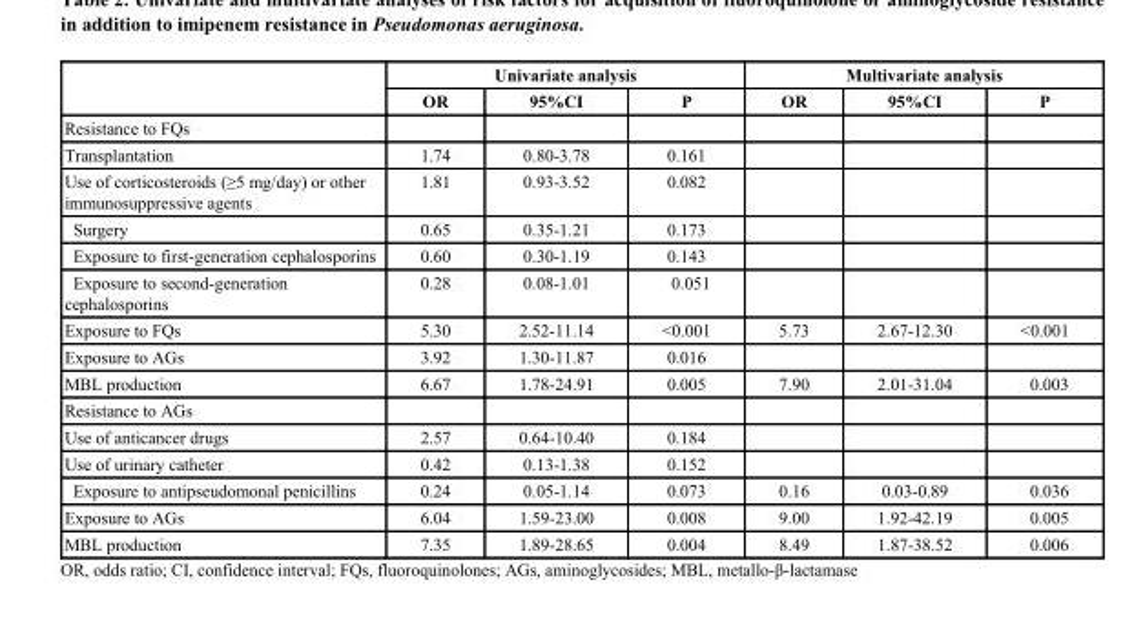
<table><thead><tr><td rowspan="2"></td><td colspan="3">Univariate analysis</td><td colspan="3">Multivariate analysis</td></tr><tr><td>OR</td><td>95%CI</td><td>P</td><td>OR</td><td>95%CI</td><td>P</td></tr></thead><tbody><tr><td colspan="7">Resistance to FQs</td></tr><tr><td>Transplantation</td><td>1.74</td><td>0.80-3.78</td><td>0.161</td><td></td><td></td><td></td></tr><tr><td>Use of corticosteroids (≥5 mg/day) or other immunosuppressive agents</td><td>1.81</td><td>0.93-3.52</td><td>0.082</td><td></td><td></td><td></td></tr><tr><td>Surgery</td><td>0.65</td><td>0.35-1.21</td><td>0.173</td><td></td><td></td><td></td></tr><tr><td>Exposure to first-generation cephalosporins</td><td>0.60</td><td>0.30-1.19</td><td>0.143</td><td></td><td></td><td></td></tr><tr><td>Exposure to second-generation cephalosporins</td><td>0.28</td><td>0.08-1.01</td><td>0.051</td><td></td><td></td><td></td></tr><tr><td>Exposure to FQs</td><td>5.30</td><td>2.52-11.14</td><td>&lt;0.001</td><td>5.73</td><td>2.67-12.30</td><td>&lt;0.001</td></tr><tr><td>Exposure to AGs</td><td>3.92</td><td>1.30-11.87</td><td>0.016</td><td></td><td></td><td></td></tr><tr><td>MBL production</td><td>6.67</td><td>1.78-24.91</td><td>0.005</td><td>7.90</td><td>2.01-31.04</td><td>0.003</td></tr><tr><td colspan="7">Resistance to AGs</td></tr><tr><td>Use of anticancer drugs</td><td>2.57</td><td>0.64-10.40</td><td>0.184</td><td></td><td></td><td></td></tr><tr><td>Use of urinary catheter</td><td>0.42</td><td>0.13-1.38</td><td>0.152</td><td></td><td></td><td></td></tr><tr><td>Exposure to antipseudomonal penicillins</td><td>0.24</td><td>0.05-1.14</td><td>0.073</td><td>0.16</td><td>0.03-0.89</td><td>0.036</td></tr><tr><td>Exposure to AGs</td><td>6.04</td><td>1.59-23.00</td><td>0.008</td><td>9.00</td><td>1.92-42.19</td><td>0.005</td></tr><tr><td>MBL production</td><td>7.35</td><td>1.89-28.65</td><td>0.004</td><td>8.49</td><td>1.87-38.52</td><td>0.006</td></tr></tbody></table>